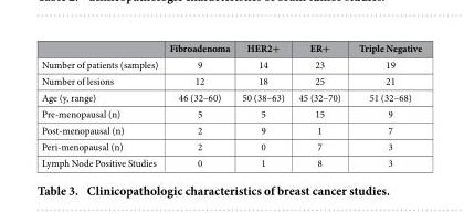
<table><thead><tr><td></td><td>Fibroadenoma</td><td>HER2+</td><td>ER+</td><td>Triple Negative</td></tr></thead><tbody><tr><td>Number of patients (samples)</td><td>9</td><td>14</td><td>23</td><td>19</td></tr><tr><td>Number of lesions</td><td>12</td><td>18</td><td>25</td><td>21</td></tr><tr><td>Age (y, range)</td><td>46 (32–60)</td><td>50 (38–63)</td><td>45 (32–70)</td><td>51 (32–68)</td></tr><tr><td>Pre-menopausal (n)</td><td>5</td><td>5</td><td>15</td><td>9</td></tr><tr><td>Post-menopausal (n)</td><td>2</td><td>9</td><td>1</td><td>7</td></tr><tr><td>Peri-menopausal (n)</td><td>2</td><td>0</td><td>7</td><td>3</td></tr><tr><td>Lymph Node Positive Studies</td><td>0</td><td>1</td><td>8</td><td>3</td></tr></tbody></table>